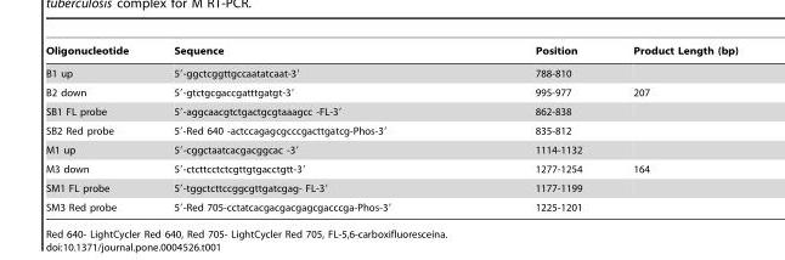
<table><thead><tr><td>Oligonucleotide</td><td>Sequence</td><td>Position</td><td>Product Length (bp)</td></tr></thead><tbody><tr><td>B1 up</td><td>5′-ggctcggttgccaatatcaat-3′</td><td>788-810</td><td></td></tr><tr><td>B2 down</td><td>5′-gtctgcgaccgatttgatgt-3′</td><td>995-977</td><td>207</td></tr><tr><td>SB1 FL probe</td><td>5′-aggcaacgtctgactgcgtaaagcc -FL-3′</td><td>862-838</td><td></td></tr><tr><td>SB2 Red probe</td><td>5′-Red 640 -actccagagcgcccgacttgatcg-Phos-3′</td><td>835-812</td><td></td></tr><tr><td>M1 up</td><td>5′-cggctaatcacgacggcac -3′</td><td>1114-1132</td><td></td></tr><tr><td>M3 down</td><td>5′-ctcttcctctcgttgtgacctgtt-3′</td><td>1277-1254</td><td>164</td></tr><tr><td>SM1 FL probe</td><td>5′-tggctcttccggcgttgatcgag- FL-3′</td><td>1177-1199</td><td></td></tr><tr><td>SM3 Red probe</td><td>5′-Red 705-cctatcacgacgacgagcgacccga-Phos-3′</td><td>1225-1201</td><td></td></tr></tbody></table>